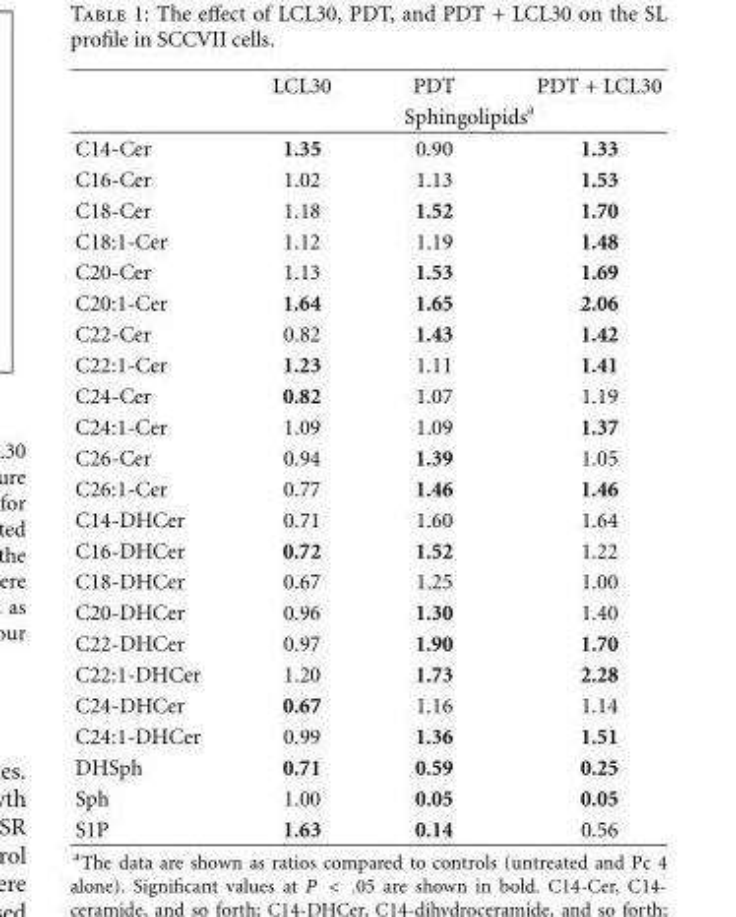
<table><thead><tr><td rowspan="2"></td><td>LCL30</td><td>PDT</td><td>PDT + LCL30</td></tr><tr><td colspan="3">Sphingolipids<sup>a</sup></td></tr></thead><tbody><tr><td>C14-Cer</td><td>1.35</td><td>0.90</td><td>1.33</td></tr><tr><td>C16-Cer</td><td>1.02</td><td>1.13</td><td>1.53</td></tr><tr><td>C18-Cer</td><td>1.18</td><td>1.52</td><td>1.70</td></tr><tr><td>C18:1-Cer</td><td>1.12</td><td>1.19</td><td>1.48</td></tr><tr><td>C20-Cer</td><td>1.13</td><td>1.53</td><td>1.69</td></tr><tr><td>C20:1-Cer</td><td>1.64</td><td>1.65</td><td>2.06</td></tr><tr><td>C22-Cer</td><td>0.82</td><td>1.43</td><td>1.42</td></tr><tr><td>C22:1-Cer</td><td>1.23</td><td>1.11</td><td>1.41</td></tr><tr><td>C24-Cer</td><td>0.82</td><td>1.07</td><td>1.19</td></tr><tr><td>C24:1-Cer</td><td>1.09</td><td>1.09</td><td>1.37</td></tr><tr><td>C26-Cer</td><td>0.94</td><td>1.39</td><td>1.05</td></tr><tr><td>C26:1-Cer</td><td>0.77</td><td>1.46</td><td>1.46</td></tr><tr><td>C14-DHCer</td><td>0.71</td><td>1.60</td><td>1.64</td></tr><tr><td>C16-DHCer</td><td>0.72</td><td>1.52</td><td>1.22</td></tr><tr><td>C18-DHCer</td><td>0.67</td><td>1.25</td><td>1.00</td></tr><tr><td>C20-DHCer</td><td>0.96</td><td>1.30</td><td>1.40</td></tr><tr><td>C22-DHCer</td><td>0.97</td><td>1.90</td><td>1.70</td></tr><tr><td>C22:1-DHCer</td><td>1.20</td><td>1.73</td><td>2.28</td></tr><tr><td>C24-DHCer</td><td>0.67</td><td>1.16</td><td>1.14</td></tr><tr><td>C24:1-DHCer</td><td>0.99</td><td>1.36</td><td>1.51</td></tr><tr><td>DHSph</td><td>0.71</td><td>0.59</td><td>0.25</td></tr><tr><td>Sph</td><td>1.00</td><td>0.05</td><td>0.05</td></tr><tr><td>S1P</td><td>1.63</td><td>0.14</td><td>0.56</td></tr></tbody></table>